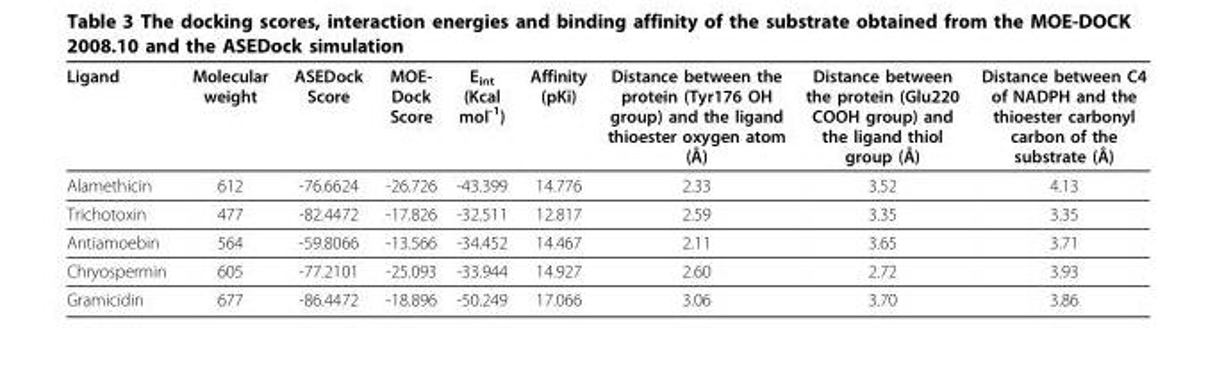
<table><thead><tr><td>Ligand</td><td>Molecular weight</td><td>ASEDock Score</td><td>MOE- Dock Score</td><td>E<sub>int</sub> (Kcal mol<sup>-1</sup>)</td><td>Affinity (pKi)</td><td>Distance between the protein (Tyr176 OH group) and the ligand thioester oxygen atom (Å)</td><td>Distance between the protein (Glu220 COOH group) and the ligand thiol group (Å)</td><td>Distance between C4 of NADPH and the thioester carbonyl carbon of the substrate (Å)</td></tr></thead><tbody><tr><td>Alamethicin</td><td>612</td><td>-76.6624</td><td>-26.726</td><td>-43.399</td><td>14.776</td><td>2.33</td><td>3.52</td><td>4.13</td></tr><tr><td>Trichotoxin</td><td>477</td><td>-82.4472</td><td>-17.826</td><td>-32.511</td><td>12.817</td><td>2.59</td><td>3.35</td><td>3.35</td></tr><tr><td>Antiamoebin</td><td>564</td><td>-59.8066</td><td>-13.566</td><td>-34.452</td><td>14.467</td><td>2.11</td><td>3.65</td><td>3.71</td></tr><tr><td>Chryospermin</td><td>605</td><td>-77.2101</td><td>-25.093</td><td>-33.944</td><td>14.927</td><td>2.60</td><td>2.72</td><td>3.93</td></tr><tr><td>Gramicidin</td><td>677</td><td>-86.4472</td><td>-18.896</td><td>-50.249</td><td>17.066</td><td>3.06</td><td>3.70</td><td>3.86</td></tr></tbody></table>